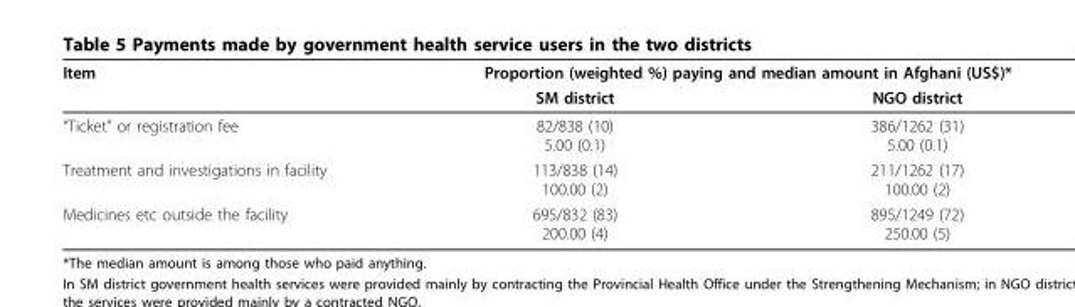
<table><thead><tr><td rowspan="2">Item</td><td colspan="2">Proportion (weighted %) paying and median amount in Afghani (US$)*</td></tr><tr><td>SM district</td><td>NGO district</td></tr></thead><tbody><tr><td>“Ticket” or registration fee</td><td>82/838 (10) 5.00 (0.1)</td><td>386/1262 (31) 5.00 (0.1)</td></tr><tr><td>Treatment and investigations in facility</td><td>113/838 (14) 100.00 (2)</td><td>211/1262 (17) 100.00 (2)</td></tr><tr><td>Medicines etc outside the facility</td><td>695/832 (83) 200.00 (4)</td><td>895/1249 (72) 250.00 (5)</td></tr></tbody></table>